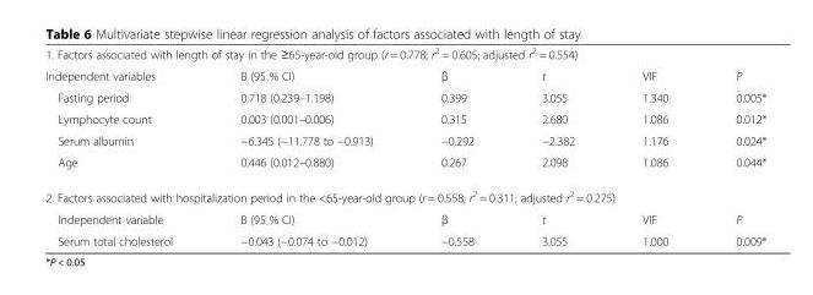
<table><tbody><tr><td colspan="6">1. Factors associated with length of stay in the ≥65-year-old group (r = 0.778; r<sup>2</sup> = 0.605; adjusted r<sup>2</sup> = 0.554)</td></tr><tr><td>Independent variables</td><td>B (95 % CI)</td><td>β</td><td>t</td><td>VIF</td><td>P</td></tr><tr><td>Fasting period</td><td>0.718 (0.239–1.198)</td><td>0.399</td><td>3.055</td><td>1.340</td><td>0.005*</td></tr><tr><td>Lymphocyte count</td><td>0.003 (0.001–0.006)</td><td>0.315</td><td>2.680</td><td>1.086</td><td>0.012*</td></tr><tr><td>Serum albumin</td><td>−6.345 (−11.778 to −0.913)</td><td>−0.292</td><td>−2.382</td><td>1.176</td><td>0.024*</td></tr><tr><td>Age</td><td>0.446 (0.012–0.880)</td><td>0.267</td><td>2.098</td><td>1.086</td><td>0.044*</td></tr><tr><td colspan="6">2. Factors associated with hospitalization period in the &lt;65-year-old group (r = 0.558; r<sup>2</sup> = 0.311; adjusted r<sup>2</sup> = 0.275)</td></tr><tr><td>Independent variable</td><td>B (95 % CI)</td><td>β</td><td>t</td><td>VIF</td><td>P</td></tr><tr><td>Serum total cholesterol</td><td>−0.043 (−0.074 to −0.012)</td><td>−0.558</td><td>3.055</td><td>1.000</td><td>0.009*</td></tr></tbody></table>